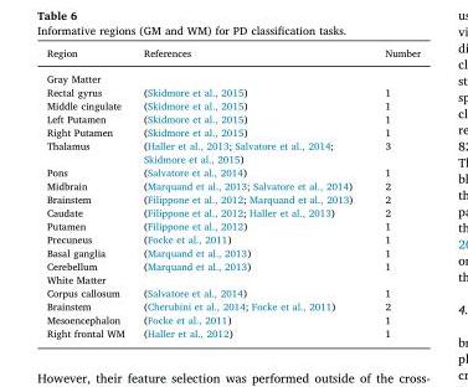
<table><thead><tr><td>Region</td><td>References</td><td>Number</td></tr></thead><tbody><tr><td colspan="3">Gray Matter</td></tr><tr><td>Rectal gyrus</td><td>(Skidmore et al., 2015)</td><td>1</td></tr><tr><td>Middle cingulate</td><td>(Skidmore et al., 2015)</td><td>1</td></tr><tr><td>Left Putamen</td><td>(Skidmore et al., 2015)</td><td>1</td></tr><tr><td>Right Putamen</td><td>(Skidmore et al., 2015)</td><td>1</td></tr><tr><td>Thalamus</td><td>(Haller et al., 2013; Salvatore et al., 2014; Skidmore et al., 2015)</td><td>3</td></tr><tr><td>Pons</td><td>(Salvatore et al., 2014)</td><td>1</td></tr><tr><td>Midbrain</td><td>(Marquand et al., 2013; Salvatore et al., 2014)</td><td>2</td></tr><tr><td>Brainstem</td><td>(Filippone et al., 2012; Marquand et al., 2013)</td><td>2</td></tr><tr><td>Caudate</td><td>(Filippone et al., 2012; Haller et al., 2013)</td><td>2</td></tr><tr><td>Putamen</td><td>(Filippone et al., 2012)</td><td>1</td></tr><tr><td>Precuneus</td><td>(Focke et al., 2011)</td><td>1</td></tr><tr><td>Basal ganglia</td><td>(Marquand et al., 2013)</td><td>1</td></tr><tr><td>Cerebellum</td><td>(Marquand et al., 2013)</td><td>1</td></tr><tr><td colspan="3">White Matter</td></tr><tr><td>Corpus callosum</td><td>(Salvatore et al., 2014)</td><td>1</td></tr><tr><td>Brainstem</td><td>(Cherubini et al., 2014; Focke et al., 2011)</td><td>2</td></tr><tr><td>Mesoencephalon</td><td>(Focke et al., 2011)</td><td>1</td></tr><tr><td>Right frontal WM</td><td>(Haller et al., 2012)</td><td>1</td></tr></tbody></table>